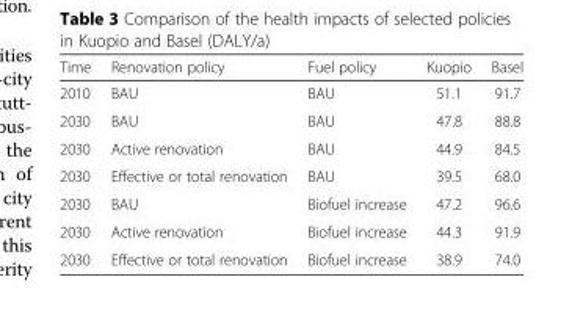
<table><thead><tr><td>Time</td><td>Renovation policy</td><td>Fuel policy</td><td>Kuopio</td><td>Basel</td></tr></thead><tbody><tr><td>2010</td><td>BAU</td><td>BAU</td><td>51.1</td><td>91.7</td></tr><tr><td>2030</td><td>BAU</td><td>BAU</td><td>47.8</td><td>88.8</td></tr><tr><td>2030</td><td>Active renovation</td><td>BAU</td><td>44.9</td><td>84.5</td></tr><tr><td>2030</td><td>Effective or total renovation</td><td>BAU</td><td>39.5</td><td>68.0</td></tr><tr><td>2030</td><td>BAU</td><td>Biofuel increase</td><td>47.2</td><td>96.6</td></tr><tr><td>2030</td><td>Active renovation</td><td>Biofuel increase</td><td>44.3</td><td>91.9</td></tr><tr><td>2030</td><td>Effective or total renovation</td><td>Biofuel increase</td><td>38.9</td><td>74.0</td></tr></tbody></table>